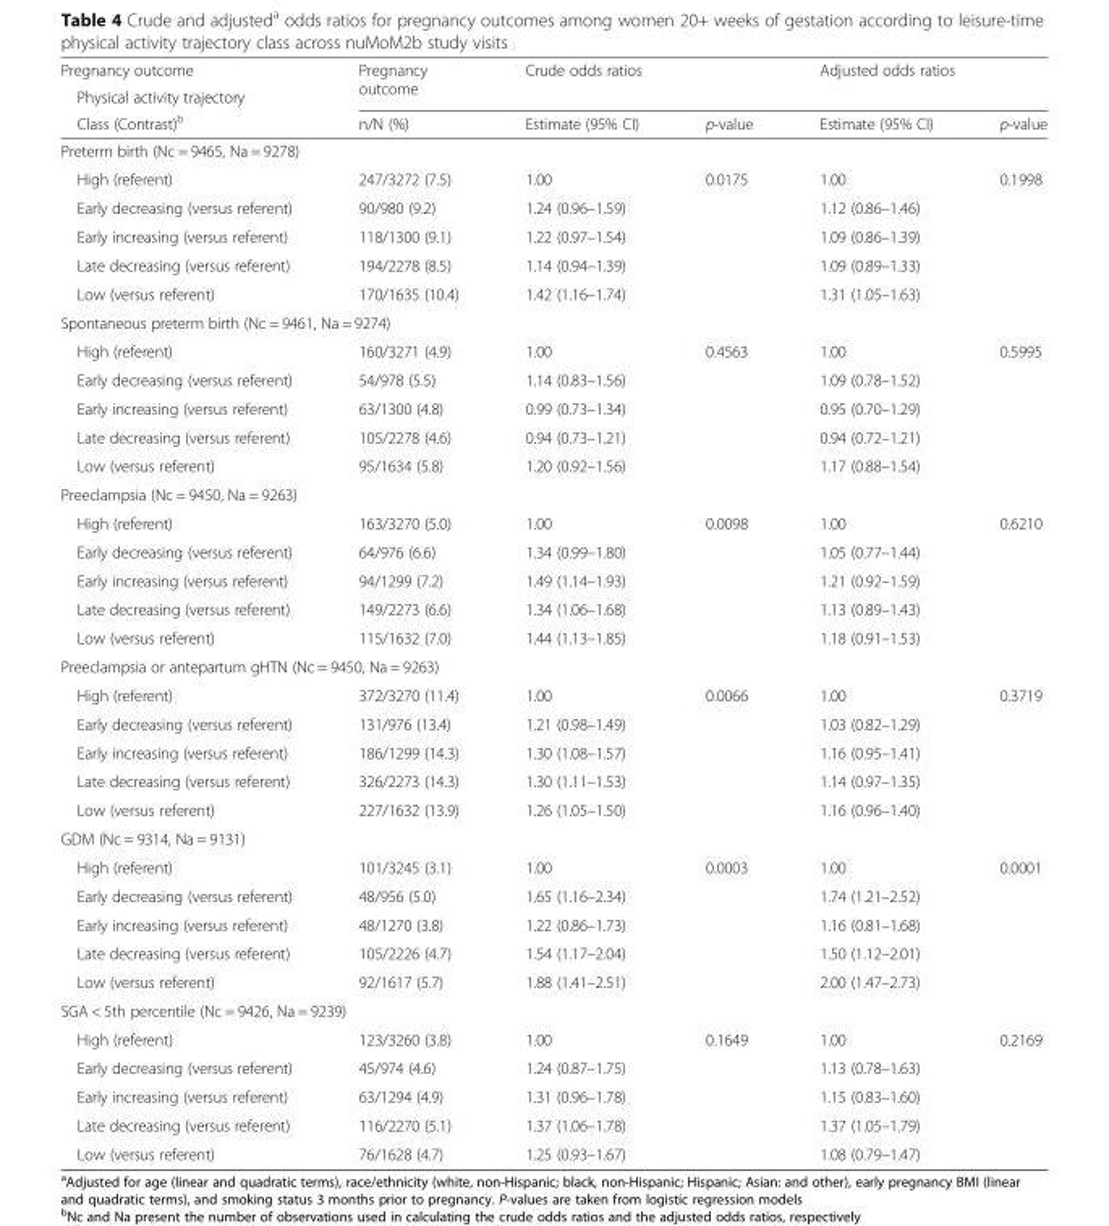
<table><thead><tr><td rowspan="3">Pregnancy outcome Physical activity trajectory Class (Contrast)<sup>b</sup></td><td rowspan="3">Pregnancy outcome n/N (%)</td><td rowspan="2" colspan="2">Crude odds ratios</td><td rowspan="2" colspan="2">Adjusted odds ratios</td></tr><tr></tr><tr><td>Estimate (95% CI)</td><td>p-value</td><td>Estimate (95% CI)</td><td>p-value</td></tr></thead><tbody><tr><td colspan="6">Preterm birth (Nc = 9465, Na = 9278)</td></tr><tr><td>High (referent)</td><td>247/3272 (7.5)</td><td>1.00</td><td rowspan="5">0.0175</td><td>1.00</td><td rowspan="5">0.1998</td></tr><tr><td>Early decreasing (versus referent)</td><td>90/980 (9.2)</td><td>1.24 (0.96–1.59)</td><td>1.12 (0.86–1.46)</td></tr><tr><td>Early increasing (versus referent)</td><td>118/1300 (9.1)</td><td>1.22 (0.97–1.54)</td><td>1.09 (0.86–1.39)</td></tr><tr><td>Late decreasing (versus referent)</td><td>194/2278 (8.5)</td><td>1.14 (0.94–1.39)</td><td>1.09 (0.89–1.33)</td></tr><tr><td>Low (versus referent)</td><td>170/1635 (10.4)</td><td>1.42 (1.16–1.74)</td><td>1.31 (1.05–1.63)</td></tr><tr><td colspan="6">Spontaneous preterm birth (Nc = 9461, Na = 9274)</td></tr><tr><td>High (referent)</td><td>160/3271 (4.9)</td><td>1.00</td><td rowspan="5">0.4563</td><td>1.00</td><td rowspan="5">0.5995</td></tr><tr><td>Early decreasing (versus referent)</td><td>54/978 (5.5)</td><td>1.14 (0.83–1.56)</td><td>1.09 (0.78–1.52)</td></tr><tr><td>Early increasing (versus referent)</td><td>63/1300 (4.8)</td><td>0.99 (0.73–1.34)</td><td>0.95 (0.70–1.29)</td></tr><tr><td>Late decreasing (versus referent)</td><td>105/2278 (4.6)</td><td>0.94 (0.73–1.21)</td><td>0.94 (0.72–1.21)</td></tr><tr><td>Low (versus referent)</td><td>95/1634 (5.8)</td><td>1.20 (0.92–1.56)</td><td>1.17 (0.88–1.54)</td></tr><tr><td colspan="6">Preeclampsia (Nc = 9450, Na = 9263)</td></tr><tr><td>High (referent)</td><td>163/3270 (5.0)</td><td>1.00</td><td rowspan="5">0.0098</td><td>1.00</td><td rowspan="5">0.6210</td></tr><tr><td>Early decreasing (versus referent)</td><td>64/976 (6.6)</td><td>1.34 (0.99–1.80)</td><td>1.05 (0.77–1.44)</td></tr><tr><td>Early increasing (versus referent)</td><td>94/1299 (7.2)</td><td>1.49 (1.14–1.93)</td><td>1.21 (0.92–1.59)</td></tr><tr><td>Late decreasing (versus referent)</td><td>149/2273 (6.6)</td><td>1.34 (1.06–1.68)</td><td>1.13 (0.89–1.43)</td></tr><tr><td>Low (versus referent)</td><td>115/1632 (7.0)</td><td>1.44 (1.13–1.85)</td><td>1.18 (0.91–1.53)</td></tr><tr><td colspan="6">Preeclampsia or antepartum gHTN (Nc = 9450, Na = 9263)</td></tr><tr><td>High (referent)</td><td>372/3270 (11.4)</td><td>1.00</td><td rowspan="5">0.0066</td><td>1.00</td><td rowspan="5">0.3719</td></tr><tr><td>Early decreasing (versus referent)</td><td>131/976 (13.4)</td><td>1.21 (0.98–1.49)</td><td>1.03 (0.82–1.29)</td></tr><tr><td>Early increasing (versus referent)</td><td>186/1299 (14.3)</td><td>1.30 (1.08–1.57)</td><td>1.16 (0.95–1.41)</td></tr><tr><td>Late decreasing (versus referent)</td><td>326/2273 (14.3)</td><td>1.30 (1.11–1.53)</td><td>1.14 (0.97–1.35)</td></tr><tr><td>Low (versus referent)</td><td>227/1632 (13.9)</td><td>1.26 (1.05–1.50)</td><td>1.16 (0.96–1.40)</td></tr><tr><td colspan="6">GDM (Nc = 9314, Na = 9131)</td></tr><tr><td>High (referent)</td><td>101/3245 (3.1)</td><td>1.00</td><td rowspan="5">0.0003</td><td>1.00</td><td rowspan="5">0.0001</td></tr><tr><td>Early decreasing (versus referent)</td><td>48/956 (5.0)</td><td>1.65 (1.16–2.34)</td><td>1.74 (1.21–2.52)</td></tr><tr><td>Early increasing (versus referent)</td><td>48/1270 (3.8)</td><td>1.22 (0.86–1.73)</td><td>1.16 (0.81–1.68)</td></tr><tr><td>Late decreasing (versus referent)</td><td>105/2226 (4.7)</td><td>1.54 (1.17–2.04)</td><td>1.50 (1.12–2.01)</td></tr><tr><td>Low (versus referent)</td><td>92/1617 (5.7)</td><td>1.88 (1.41–2.51)</td><td>2.00 (1.47–2.73)</td></tr><tr><td colspan="6">SGA &lt; 5th percentile (Nc = 9426, Na = 9239)</td></tr><tr><td>High (referent)</td><td>123/3260 (3.8)</td><td>1.00</td><td rowspan="5">0.1649</td><td>1.00</td><td rowspan="5">0.2169</td></tr><tr><td>Early decreasing (versus referent)</td><td>45/974 (4.6)</td><td>1.24 (0.87–1.75)</td><td>1.13 (0.78–1.63)</td></tr><tr><td>Early increasing (versus referent)</td><td>63/1294 (4.9)</td><td>1.31 (0.96–1.78)</td><td>1.15 (0.83–1.60)</td></tr><tr><td>Late decreasing (versus referent)</td><td>116/2270 (5.1)</td><td>1.37 (1.06–1.78)</td><td>1.37 (1.05–1.79)</td></tr><tr><td>Low (versus referent)</td><td>76/1628 (4.7)</td><td>1.25 (0.93–1.67)</td><td>1.08 (0.79–1.47)</td></tr></tbody></table>